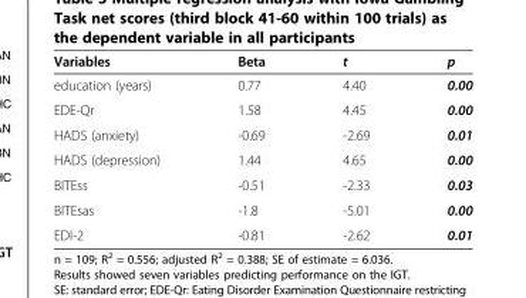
<table><thead><tr><td>Variables</td><td>Beta</td><td>t</td><td>p</td></tr></thead><tbody><tr><td>education (years)</td><td>0.77</td><td>4.40</td><td>0.00</td></tr><tr><td>EDE-Qr</td><td>1.58</td><td>4.45</td><td>0.00</td></tr><tr><td>HADS (anxiety)</td><td>-0.69</td><td>-2.69</td><td>0.01</td></tr><tr><td>HADS (depression)</td><td>1.44</td><td>4.65</td><td>0.00</td></tr><tr><td>BITEss</td><td>-0.51</td><td>-2.33</td><td>0.03</td></tr><tr><td>BITEsas</td><td>-1.8</td><td>-5.01</td><td>0.00</td></tr><tr><td>EDI-2</td><td>-0.81</td><td>-2.62</td><td>0.01</td></tr></tbody></table>